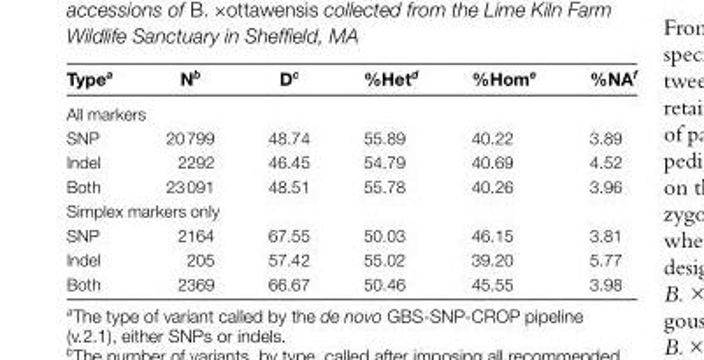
<table><thead><tr><td>Type<sup>a</sup></td><td>N<sup>b</sup></td><td>D<sup>c</sup></td><td>%Het<sup>d</sup></td><td>%Hom<sup>e</sup></td><td>%NA<sup>f</sup></td></tr></thead><tbody><tr><td colspan="6">All markers</td></tr><tr><td>SNP</td><td>20 799</td><td>48.74</td><td>55.89</td><td>40.22</td><td>3.89</td></tr><tr><td>Indel</td><td>2292</td><td>46.45</td><td>54.79</td><td>40.69</td><td>4.52</td></tr><tr><td>Both</td><td>23 091</td><td>48.51</td><td>55.78</td><td>40.26</td><td>3.96</td></tr><tr><td colspan="6">Simplex markers only</td></tr><tr><td>SNP</td><td>2164</td><td>67.55</td><td>50.03</td><td>46.15</td><td>3.81</td></tr><tr><td>Indel</td><td>205</td><td>57.42</td><td>55.02</td><td>39.20</td><td>5.77</td></tr><tr><td>Both</td><td>2369</td><td>66.67</td><td>50.46</td><td>45.55</td><td>3.98</td></tr></tbody></table>